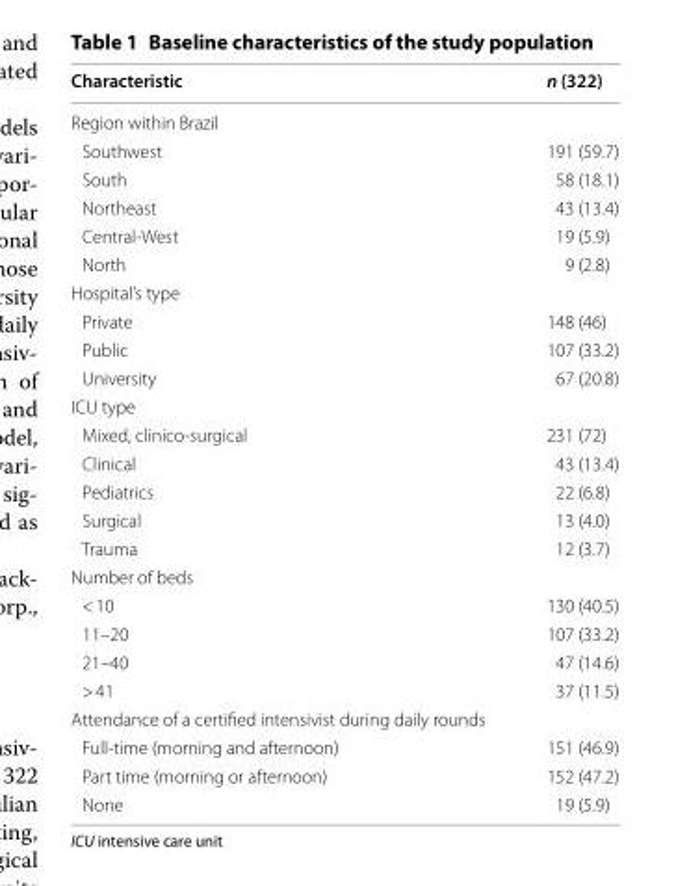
<table><thead><tr><td>Characteristic</td><td>n (322)</td></tr></thead><tbody><tr><td colspan="2">Region within Brazil</td></tr><tr><td>Southwest</td><td>191 (59.7)</td></tr><tr><td>South</td><td>58 (18.1)</td></tr><tr><td>Northeast</td><td>43 (13.4)</td></tr><tr><td>Central-West</td><td>19 (5.9)</td></tr><tr><td>North</td><td>9 (2.8)</td></tr><tr><td colspan="2">Hospital’s type</td></tr><tr><td>Private</td><td>148 (46)</td></tr><tr><td>Public</td><td>107 (33.2)</td></tr><tr><td>University</td><td>67 (20.8)</td></tr><tr><td colspan="2">ICU type</td></tr><tr><td>Mixed, clinico-surgical</td><td>231 (72)</td></tr><tr><td>Clinical</td><td>43 (13.4)</td></tr><tr><td>Pediatrics</td><td>22 (6.8)</td></tr><tr><td>Surgical</td><td>13 (4.0)</td></tr><tr><td>Trauma</td><td>12 (3.7)</td></tr><tr><td colspan="2">Number of beds</td></tr><tr><td>&lt; 10</td><td>130 (40.5)</td></tr><tr><td>11–20</td><td>107 (33.2)</td></tr><tr><td>21–40</td><td>47 (14.6)</td></tr><tr><td>&gt; 41</td><td>37 (11.5)</td></tr><tr><td colspan="2">Attendance of a certified intensivist during daily rounds</td></tr><tr><td>Full-time (morning and afternoon)</td><td>151 (46.9)</td></tr><tr><td>Part time (morning or afternoon)</td><td>152 (47.2)</td></tr><tr><td>None</td><td>19 (5.9)</td></tr></tbody></table>